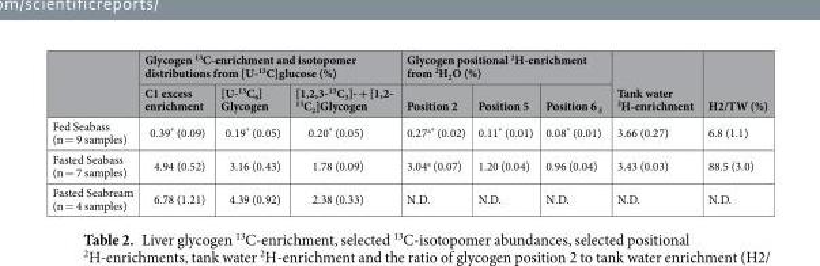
<table><thead><tr><td rowspan="2"></td><td colspan="3">Glycogen <sup>13</sup>C-enrichment and isotopomer distributions from [U-<sup>13</sup>C]glucose (%)</td><td colspan="3">Glycogen positional <sup>2</sup>H-enrichment from <sup>2</sup>H<sub>2</sub>O (%)</td><td rowspan="2">Tank water <sup>2</sup>H-enrichment</td><td rowspan="2">H2/TW (%)</td></tr><tr><td>C1 excess enrichment</td><td>[U-<sup>13</sup>C<sub>6</sub>] Glycogen</td><td>[1,2,3-<sup>13</sup>C<sub>3</sub>]- + [1,2- <sup>13</sup>C<sub>2</sub>]Glycogen</td><td>Position 2</td><td>Position 5</td><td>Position 6 <sub>S</sub></td></tr></thead><tbody><tr><td>Fed Seabass (n = 9 samples)</td><td>0.39* (0.09)</td><td>0.19* (0.05)</td><td>0.20* (0.05)</td><td>0.27<sup>a*</sup> (0.02)</td><td>0.11* (0.01)</td><td>0.08* (0.01)</td><td>3.66 (0.27)</td><td>6.8 (1.1)</td></tr><tr><td>Fasted Seabass (n = 7 samples)</td><td>4.94 (0.52)</td><td>3.16 (0.43)</td><td>1.78 (0.09)</td><td>3.04<sup>a</sup> (0.07)</td><td>1.20 (0.04)</td><td>0.96 (0.04)</td><td>3.43 (0.03)</td><td>88.5 (3.0)</td></tr><tr><td>Fasted Seabream (n = 4 samples)</td><td>6.78 (1.21)</td><td>4.39 (0.92)</td><td>2.38 (0.33)</td><td>N.D.</td><td>N.D.</td><td>N.D.</td><td>N.D.</td><td>N.D.</td></tr></tbody></table>